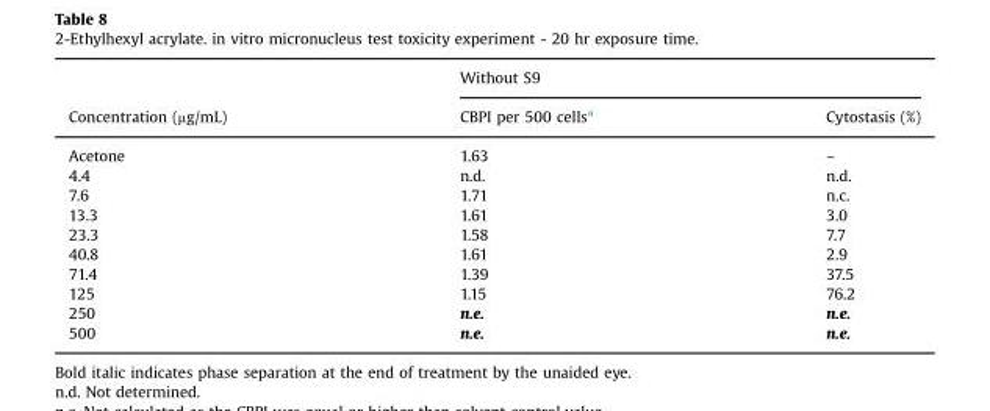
<table><thead><tr><td rowspan="2">Concentration (µg/mL)</td><td colspan="2">Without S9</td></tr><tr><td>CBPI per 500 cells<sup>a</sup></td><td>Cytostasis (%)</td></tr></thead><tbody><tr><td>Acetone</td><td>1.63</td><td>–</td></tr><tr><td>4.4</td><td>n.d.</td><td>n.d.</td></tr><tr><td>7.6</td><td>1.71</td><td>n.c.</td></tr><tr><td>13.3</td><td>1.61</td><td>3.0</td></tr><tr><td>23.3</td><td>1.58</td><td>7.7</td></tr><tr><td>40.8</td><td>1.61</td><td>2.9</td></tr><tr><td>71.4</td><td>1.39</td><td>37.5</td></tr><tr><td>125</td><td>1.15</td><td>76.2</td></tr><tr><td>250</td><td>n.e.</td><td>n.e.</td></tr><tr><td>500</td><td>n.e.</td><td>n.e.</td></tr></tbody></table>